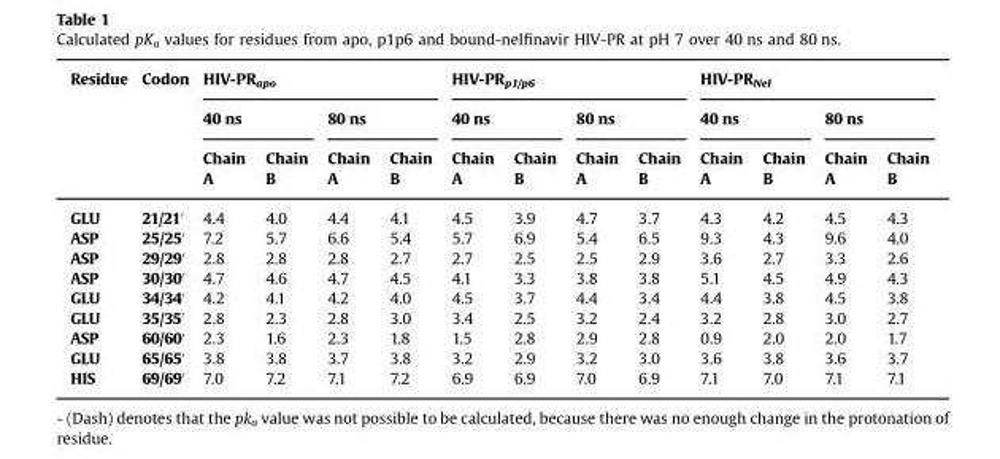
<table><thead><tr><td rowspan="3">Residue</td><td rowspan="3">Codon</td><td colspan="4">HIV-PR<sub>apo</sub></td><td colspan="4">HIV-PR<sub>p1/p6</sub></td><td colspan="4">HIV-PR<sub>Nel</sub></td></tr><tr><td colspan="2">40 ns</td><td colspan="2">80 ns</td><td colspan="2">40 ns</td><td colspan="2">80 ns</td><td colspan="2">40 ns</td><td colspan="2">80 ns</td></tr><tr><td>Chain A</td><td>Chain B</td><td>Chain A</td><td>Chain B</td><td>Chain A</td><td>Chain B</td><td>Chain A</td><td>Chain B</td><td>Chain A</td><td>Chain B</td><td>Chain A</td><td>Chain B</td></tr></thead><tbody><tr><td>GLU</td><td>21/21′</td><td>4.4</td><td>4.0</td><td>4.4</td><td>4.1</td><td>4.5</td><td>3.9</td><td>4.7</td><td>3.7</td><td>4.3</td><td>4.2</td><td>4.5</td><td>4.3</td></tr><tr><td>ASP</td><td>25/25′</td><td>7.2</td><td>5.7</td><td>6.6</td><td>5.4</td><td>5.7</td><td>6.9</td><td>5.4</td><td>6.5</td><td>9.3</td><td>4.3</td><td>9.6</td><td>4.0</td></tr><tr><td>ASP</td><td>29/29′</td><td>2.8</td><td>2.8</td><td>2.8</td><td>2.7</td><td>2.7</td><td>2.5</td><td>2.5</td><td>2.9</td><td>3.6</td><td>2.7</td><td>3.3</td><td>2.6</td></tr><tr><td>ASP</td><td>30/30′</td><td>4.7</td><td>4.6</td><td>4.7</td><td>4.5</td><td>4.1</td><td>3.3</td><td>3.8</td><td>3.8</td><td>5.1</td><td>4.5</td><td>4.9</td><td>4.3</td></tr><tr><td>GLU</td><td>34/34′</td><td>4.2</td><td>4.1</td><td>4.2</td><td>4.0</td><td>4.5</td><td>3.7</td><td>4.4</td><td>3.4</td><td>4.4</td><td>3.8</td><td>4.5</td><td>3.8</td></tr><tr><td>GLU</td><td>35/35′</td><td>2.8</td><td>2.3</td><td>2.8</td><td>3.0</td><td>3.4</td><td>2.5</td><td>3.2</td><td>2.4</td><td>3.2</td><td>2.8</td><td>3.0</td><td>2.7</td></tr><tr><td>ASP</td><td>60/60′</td><td>2.3</td><td>1.6</td><td>2.3</td><td>1.8</td><td>1.5</td><td>2.8</td><td>2.9</td><td>2.8</td><td>0.9</td><td>2.0</td><td>2.0</td><td>1.7</td></tr><tr><td>GLU</td><td>65/65′</td><td>3.8</td><td>3.8</td><td>3.7</td><td>3.8</td><td>3.2</td><td>2.9</td><td>3.2</td><td>3.0</td><td>3.6</td><td>3.8</td><td>3.6</td><td>3.7</td></tr><tr><td>HIS</td><td>69/69′</td><td>7.0</td><td>7.2</td><td>7.1</td><td>7.2</td><td>6.9</td><td>6.9</td><td>7.0</td><td>6.9</td><td>7.1</td><td>7.0</td><td>7.1</td><td>7.1</td></tr></tbody></table>